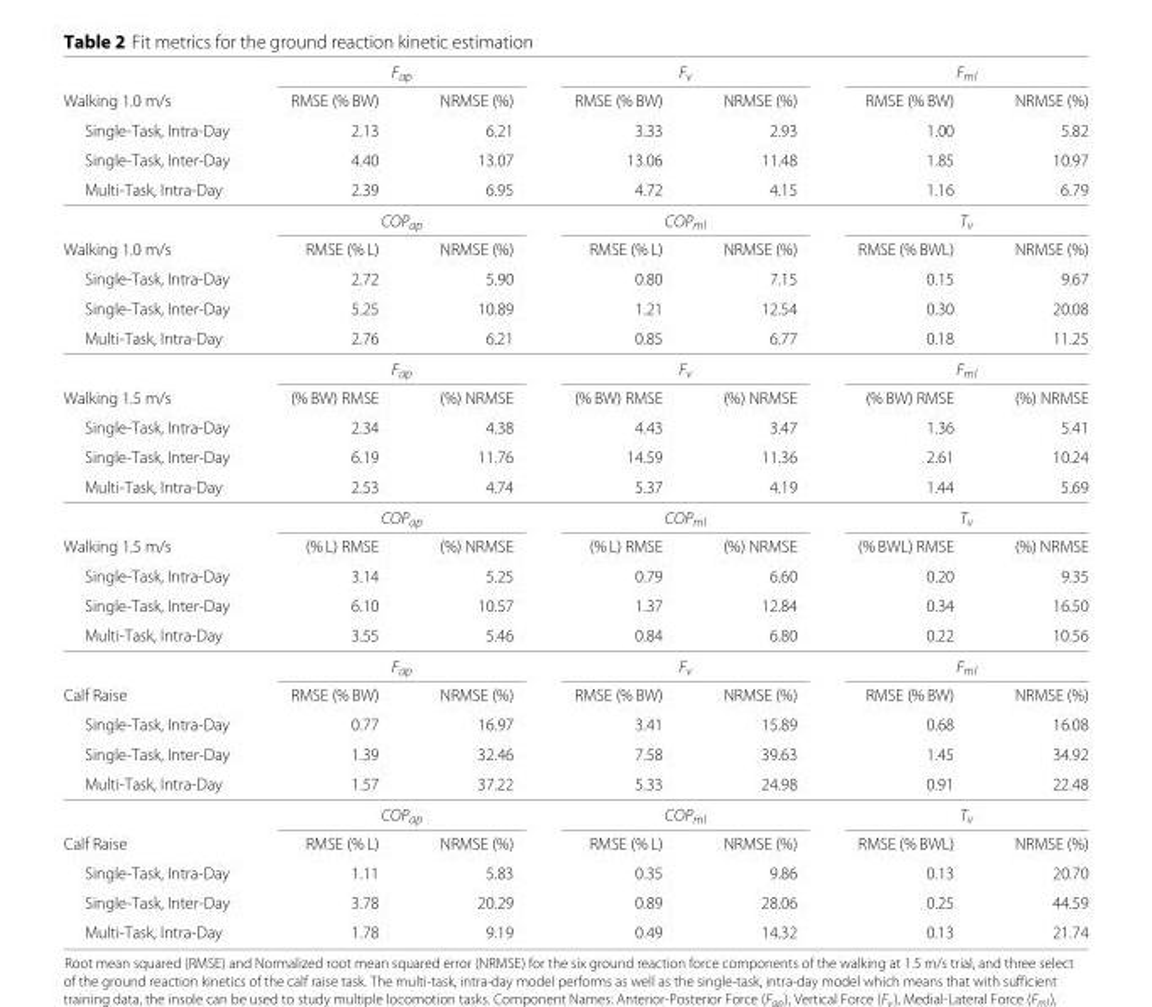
<table><thead><tr><td rowspan="5">Walking 1.0 m/s Single-Task, Intra-Day Single-Task, Inter-Day Multi-Task, Intra-Day</td><td colspan="2">F<sub>ap</sub></td><td colspan="2">F<sub>v</sub></td><td colspan="2">F<sub>ml</sub></td></tr><tr><td rowspan="4">RMSE (% BW) 2.13 4.40 2.39</td><td rowspan="4">NRMSE (%) 6.21 13.07 6.95</td><td rowspan="4">RMSE (% BW) 3.33 13.06 4.72</td><td rowspan="4">NRMSE (%) 2.93 11.48 4.15</td><td rowspan="4">RMSE (% BW) 1.00 1.85 1.16</td><td rowspan="4">NRMSE (%) 5.82 10.97 6.79</td></tr><tr></tr><tr></tr><tr></tr></thead><tbody><tr><td></td><td colspan="2">COP<sub>ap</sub></td><td colspan="2">COP<sub>ml</sub></td><td colspan="2">T<sub>v</sub></td></tr><tr><td>Walking 1.0 m/s</td><td>RMSE (% L)</td><td>NRMSE (%)</td><td>RMSE (% L)</td><td>NRMSE (%)</td><td>RMSE (% BWL)</td><td>NRMSE (%)</td></tr><tr><td>Single-Task, Intra-Day</td><td>2.72</td><td>5.90</td><td>0.80</td><td>7.15</td><td>0.15</td><td>9.67</td></tr><tr><td>Single-Task, Inter-Day</td><td>5.25</td><td>10.89</td><td>1.21</td><td>12.54</td><td>0.30</td><td>20.08</td></tr><tr><td rowspan="2">Multi-Task, Intra-Day</td><td>2.76</td><td>6.21</td><td>0.85</td><td>6.77</td><td>0.18</td><td>11.25</td></tr><tr><td colspan="2">F<sub>ap</sub></td><td colspan="2">F<sub>v</sub></td><td colspan="2">F<sub>ml</sub></td></tr><tr><td>Walking 1.5 m/s</td><td>(% BW) RMSE</td><td>(%) NRMSE</td><td>(% BW) RMSE</td><td>(%) NRMSE</td><td>(% BW) RMSE</td><td>(%) NRMSE</td></tr><tr><td>Single-Task, Intra-Day</td><td>2.34</td><td>4.38</td><td>4.43</td><td>3.47</td><td>1.36</td><td>5.41</td></tr><tr><td>Single-Task, Inter-Day</td><td>6.19</td><td>11.76</td><td>14.59</td><td>11.36</td><td>2.61</td><td>10.24</td></tr><tr><td rowspan="2">Multi-Task, Intra-Day</td><td>2.53</td><td>4.74</td><td>5.37</td><td>4.19</td><td>1.44</td><td>5.69</td></tr><tr><td colspan="2">COP<sub>ap</sub></td><td colspan="2">COP<sub>ml</sub></td><td colspan="2">T<sub>v</sub></td></tr><tr><td>Walking 1.5 m/s</td><td>(% L) RMSE</td><td>(%) NRMSE</td><td>(% L) RMSE</td><td>(%) NRMSE</td><td>(% BWL) RMSE</td><td>(%) NRMSE</td></tr><tr><td>Single-Task, Intra-Day</td><td>3.14</td><td>5.25</td><td>0.79</td><td>6.60</td><td>0.20</td><td>9.35</td></tr><tr><td>Single-Task, Inter-Day</td><td>6.10</td><td>10.57</td><td>1.37</td><td>12.84</td><td>0.34</td><td>16.50</td></tr><tr><td rowspan="2">Multi-Task, Intra-Day</td><td>3.55</td><td>5.46</td><td>0.84</td><td>6.80</td><td>0.22</td><td>10.56</td></tr><tr><td colspan="2">F<sub>ap</sub></td><td colspan="2">F<sub>v</sub></td><td colspan="2">F<sub>ml</sub></td></tr><tr><td>Calf Raise</td><td>RMSE (% BW)</td><td>NRMSE (%)</td><td>RMSE (% BW)</td><td>NRMSE (%)</td><td>RMSE (% BW)</td><td>NRMSE (%)</td></tr><tr><td>Single-Task, Intra-Day</td><td>0.77</td><td>16.97</td><td>3.41</td><td>15.89</td><td>0.68</td><td>16.08</td></tr><tr><td>Single-Task, Inter-Day</td><td>1.39</td><td>32.46</td><td>7.58</td><td>39.63</td><td>1.45</td><td>34.92</td></tr><tr><td rowspan="2">Multi-Task, Intra-Day</td><td>1.57</td><td>37.22</td><td>5.33</td><td>24.98</td><td>0.91</td><td>22.48</td></tr><tr><td colspan="2">COP<sub>ap</sub></td><td colspan="2">COP<sub>ml</sub></td><td colspan="2">T<sub>v</sub></td></tr><tr><td>Calf Raise</td><td>RMSE (% L)</td><td>NRMSE (%)</td><td>RMSE (% L)</td><td>NRMSE (%)</td><td>RMSE (% BWL)</td><td>NRMSE (%)</td></tr><tr><td>Single-Task, Intra-Day</td><td>1.11</td><td>5.83</td><td>0.35</td><td>9.86</td><td>0.13</td><td>20.70</td></tr><tr><td>Single-Task, Inter-Day</td><td>3.78</td><td>20.29</td><td>0.89</td><td>28.06</td><td>0.25</td><td>44.59</td></tr><tr><td>Multi-Task, Intra-Day</td><td>1.78</td><td>9.19</td><td>0.49</td><td>14.32</td><td>0.13</td><td>21.74</td></tr></tbody></table>